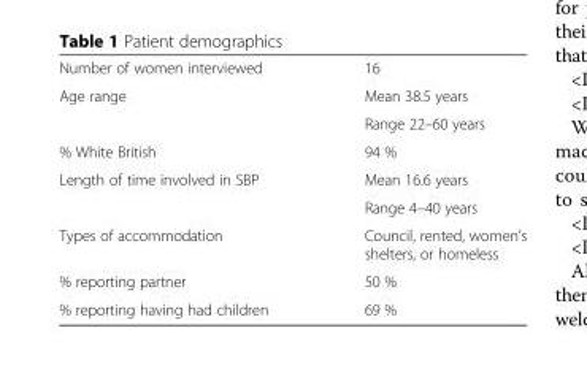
<table><tbody><tr><td>Number of women interviewed</td><td>16</td></tr><tr><td rowspan="2">Age range</td><td>Mean 38.5 years</td></tr><tr><td>Range 22–60 years</td></tr><tr><td>% White British</td><td>94 %</td></tr><tr><td rowspan="2">Length of time involved in SBP</td><td>Mean 16.6 years</td></tr><tr><td>Range 4–40 years</td></tr><tr><td>Types of accommodation</td><td>Council, rented, women’s shelters, or homeless</td></tr><tr><td>% reporting partner</td><td>50 %</td></tr><tr><td>% reporting having had children</td><td>69 %</td></tr></tbody></table>